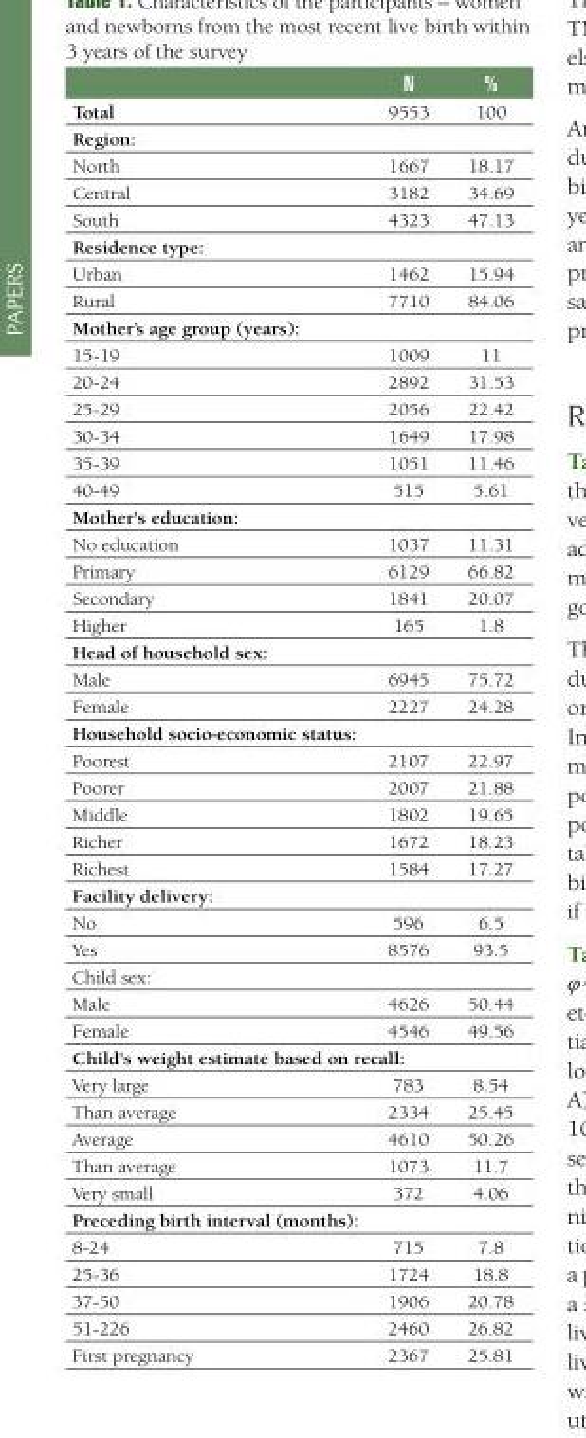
<table><thead><tr><td></td><td>N</td><td>%</td></tr></thead><tbody><tr><td>Total</td><td>9553</td><td>100</td></tr><tr><td colspan="3">Region:</td></tr><tr><td>North</td><td>1667</td><td>18.17</td></tr><tr><td>Central</td><td>3182</td><td>34.69</td></tr><tr><td>South</td><td>4323</td><td>47.13</td></tr><tr><td colspan="3">Residence type:</td></tr><tr><td>Urban</td><td>1462</td><td>15.94</td></tr><tr><td>Rural</td><td>7710</td><td>84.06</td></tr><tr><td colspan="3">Mother’s age group (years):</td></tr><tr><td>15-19</td><td>1009</td><td>11</td></tr><tr><td>20-24</td><td>2892</td><td>31.53</td></tr><tr><td>25-29</td><td>2056</td><td>22.42</td></tr><tr><td>30-34</td><td>1649</td><td>17.98</td></tr><tr><td>35-39</td><td>1051</td><td>11.46</td></tr><tr><td>40-49</td><td>515</td><td>5.61</td></tr><tr><td colspan="3">Mother&#x27;s education:</td></tr><tr><td>No education</td><td>1037</td><td>11.31</td></tr><tr><td>Primary</td><td>6129</td><td>66.82</td></tr><tr><td>Secondary</td><td>1841</td><td>20.07</td></tr><tr><td>Higher</td><td>165</td><td>1.8</td></tr><tr><td colspan="3">Head of household sex:</td></tr><tr><td>Male</td><td>6945</td><td>75.72</td></tr><tr><td>Female</td><td>2227</td><td>24.28</td></tr><tr><td colspan="3">Household socio-economic status:</td></tr><tr><td>Poorest</td><td>2107</td><td>22.97</td></tr><tr><td>Poorer</td><td>2007</td><td>21.88</td></tr><tr><td>Middle</td><td>1802</td><td>19.65</td></tr><tr><td>Richer</td><td>1672</td><td>18.23</td></tr><tr><td>Richest</td><td>1584</td><td>17.27</td></tr><tr><td colspan="3">Facility delivery:</td></tr><tr><td>No</td><td>596</td><td>6.5</td></tr><tr><td>Yes</td><td>8576</td><td>93.5</td></tr><tr><td colspan="3">Child sex:</td></tr><tr><td>Male</td><td>4626</td><td>50.44</td></tr><tr><td>Female</td><td>4546</td><td>49.56</td></tr><tr><td colspan="3">Child&#x27;s weight estimate based on recall:</td></tr><tr><td>Very large</td><td>783</td><td>8.54</td></tr><tr><td>Than average</td><td>2334</td><td>25.45</td></tr><tr><td>Average</td><td>4610</td><td>50.26</td></tr><tr><td>Than average</td><td>1073</td><td>11.7</td></tr><tr><td>Very small</td><td>372</td><td>4.06</td></tr><tr><td colspan="3">Preceding birth interval (months):</td></tr><tr><td>8-24</td><td>715</td><td>7.8</td></tr><tr><td>25-36</td><td>1724</td><td>18.8</td></tr><tr><td>37-50</td><td>1906</td><td>20.78</td></tr><tr><td>51-226</td><td>2460</td><td>26.82</td></tr><tr><td>First pregnancy</td><td>2367</td><td>25.81</td></tr></tbody></table>